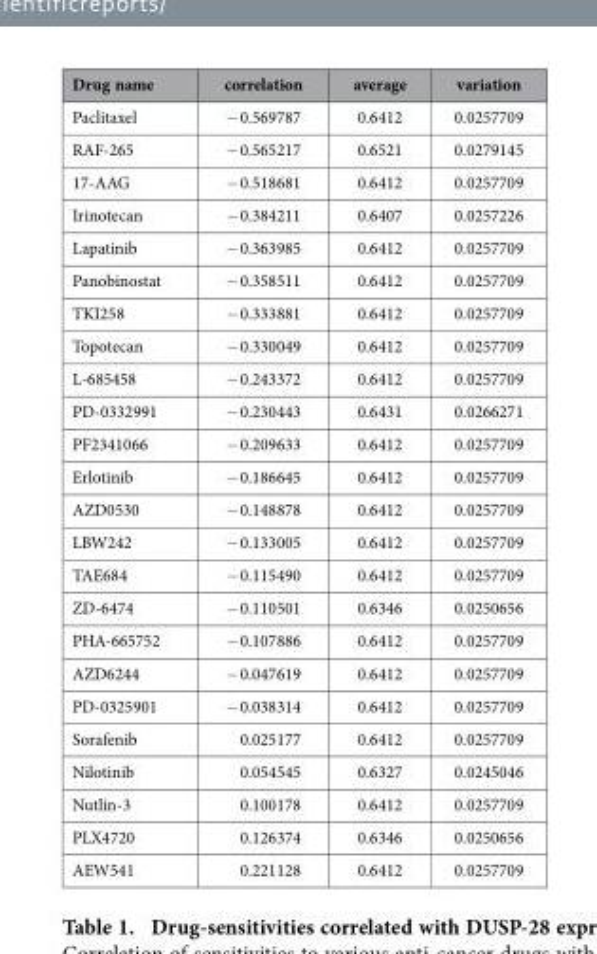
<table><thead><tr><td>Drug name</td><td>correlation</td><td>average</td><td>variation</td></tr></thead><tbody><tr><td>Paclitaxel</td><td>− 0.569787</td><td>0.6412</td><td>0.0257709</td></tr><tr><td>RAF-265</td><td>− 0.565217</td><td>0.6521</td><td>0.0279145</td></tr><tr><td>17-AAG</td><td>− 0.518681</td><td>0.6412</td><td>0.0257709</td></tr><tr><td>Irinotecan</td><td>− 0.384211</td><td>0.6407</td><td>0.0257226</td></tr><tr><td>Lapatinib</td><td>− 0.363985</td><td>0.6412</td><td>0.0257709</td></tr><tr><td>Panobinostat</td><td>− 0.358511</td><td>0.6412</td><td>0.0257709</td></tr><tr><td>TKI258</td><td>− 0.333881</td><td>0.6412</td><td>0.0257709</td></tr><tr><td>Topotecan</td><td>− 0.330049</td><td>0.6412</td><td>0.0257709</td></tr><tr><td>L-685458</td><td>− 0.243372</td><td>0.6412</td><td>0.0257709</td></tr><tr><td>PD-0332991</td><td>− 0.230443</td><td>0.6431</td><td>0.0266271</td></tr><tr><td>PF2341066</td><td>− 0.209633</td><td>0.6412</td><td>0.0257709</td></tr><tr><td>Erlotinib</td><td>− 0.186645</td><td>0.6412</td><td>0.0257709</td></tr><tr><td>AZD0530</td><td>− 0.148878</td><td>0.6412</td><td>0.0257709</td></tr><tr><td>LBW242</td><td>− 0.133005</td><td>0.6412</td><td>0.0257709</td></tr><tr><td>TAE684</td><td>− 0.115490</td><td>0.6412</td><td>0.0257709</td></tr><tr><td>ZD-6474</td><td>− 0.110501</td><td>0.6346</td><td>0.0250656</td></tr><tr><td>PHA-665752</td><td>− 0.107886</td><td>0.6412</td><td>0.0257709</td></tr><tr><td>AZD6244</td><td>− 0.047619</td><td>0.6412</td><td>0.0257709</td></tr><tr><td>PD-0325901</td><td>− 0.038314</td><td>0.6412</td><td>0.0257709</td></tr><tr><td>Sorafenib</td><td>0.025177</td><td>0.6412</td><td>0.0257709</td></tr><tr><td>Nilotinib</td><td>0.054545</td><td>0.6327</td><td>0.0245046</td></tr><tr><td>Nutlin-3</td><td>0.100178</td><td>0.6412</td><td>0.0257709</td></tr><tr><td>PLX4720</td><td>0.126374</td><td>0.6346</td><td>0.0250656</td></tr><tr><td>AEW541</td><td>0.221128</td><td>0.6412</td><td>0.0257709</td></tr></tbody></table>